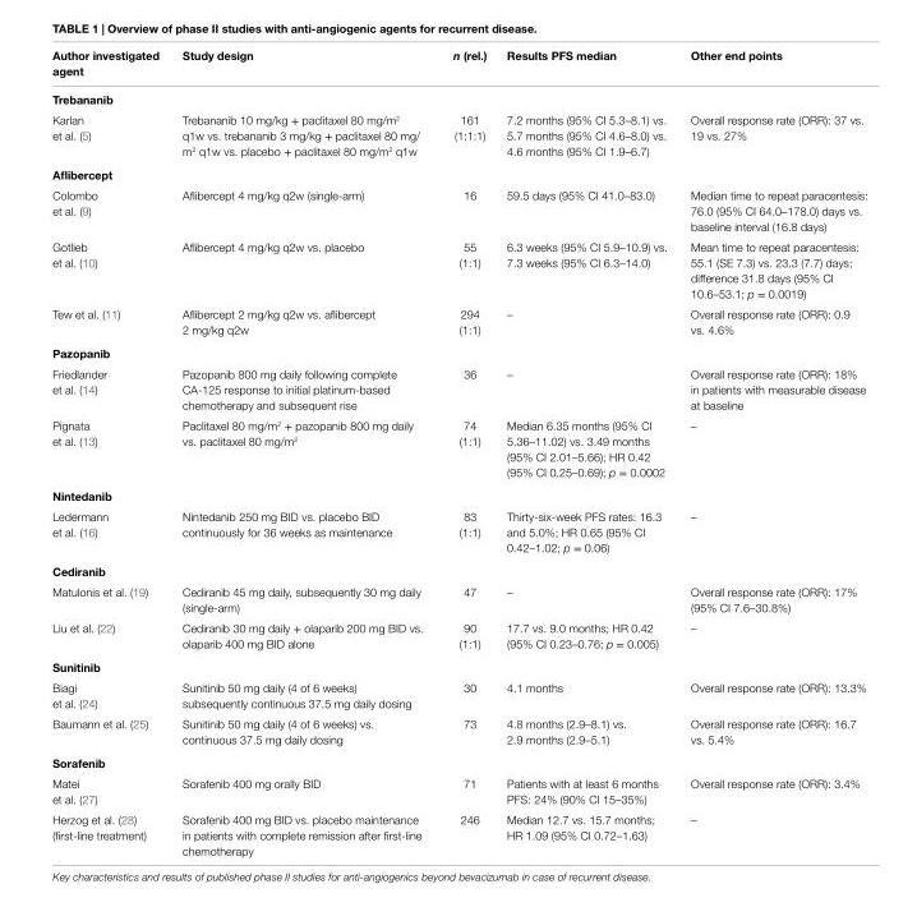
<table><thead><tr><td>Author investigated agent</td><td>Study design</td><td>n (rel.)</td><td>Results PFS median</td><td>Other end points</td></tr></thead><tbody><tr><td colspan="5">Trebananib</td></tr><tr><td>Karlan et al. (5)</td><td>Trebananib 10 mg/kg + paclitaxel 80 mg/m<sup>2</sup> q1w vs. trebananib 3 mg/kg + paclitaxel 80 mg/ m<sup>2</sup> q1w vs. placebo + paclitaxel 80 mg/m<sup>2</sup> q1w</td><td>161 (1:1:1)</td><td>7.2 months (95% CI 5.3–8.1) vs. 5.7 months (95% CI 4.6–8.0) vs. 4.6 months (95% CI 1.9–6.7)</td><td>Overall response rate (ORR): 37 vs. 19 vs. 27%</td></tr><tr><td colspan="5">Aflibercept</td></tr><tr><td>Colombo et al. (9)</td><td>Aflibercept 4 mg/kg q2w (single-arm)</td><td>16</td><td>59.5 days (95% CI 41.0–83.0)</td><td>Median time to repeat paracentesis: 76.0 (95% CI 64.0–178.0) days vs. baseline interval (16.8 days)</td></tr><tr><td>Gotlieb et al. (10)</td><td>Aflibercept 4 mg/kg q2w vs. placebo</td><td>55 (1:1)</td><td>6.3 weeks (95% CI 5.9–10.9) vs. 7.3 weeks (95% CI 6.3–14.0)</td><td>Mean time to repeat paracentesis: 55.1 (SE 7.3) vs. 23.3 (7.7) days; difference 31.8 days (95% CI 10.6–53.1; p = 0.0019)</td></tr><tr><td>Tew et al. (11)</td><td>Aflibercept 2 mg/kg q2w vs. aflibercept 2 mg/kg q2w</td><td>294 (1:1)</td><td>–</td><td>Overall response rate (ORR): 0.9 vs. 4.6%</td></tr><tr><td colspan="5">Pazopanib</td></tr><tr><td>Friedlander et al. (14)</td><td>Pazopanib 800 mg daily following complete CA-125 response to initial platinum-based chemotherapy and subsequent rise</td><td>36</td><td>–</td><td>Overall response rate (ORR): 18% in patients with measurable disease at baseline</td></tr><tr><td>Pignata et al. (13)</td><td>Paclitaxel 80 mg/m<sup>2</sup> + pazopanib 800 mg daily vs. paclitaxel 80 mg/m<sup>2</sup></td><td>74 (1:1)</td><td>Median 6.35 months (95% CI 5.36–11.02) vs. 3.49 months (95% CI 2.01–5.66); HR 0.42 (95% CI 0.25–0.69); p = 0.0002</td><td>–</td></tr><tr><td colspan="5">nintedanib</td></tr><tr><td>Ledermann et al. (16)</td><td>Nintedanib 250 mg BID vs. placebo BID continuously for 36 weeks as maintenance</td><td>83 (1:1)</td><td>Thirty-six-week PFS rates: 16.3 and 5.0%; HR 0.65 (95% CI 0.42–1.02; p = 0.06)</td><td>–</td></tr><tr><td colspan="5">Cediranib</td></tr><tr><td>Matulonis et al. (19)</td><td>Cediranib 45 mg daily, subsequently 30 mg daily (single-arm)</td><td>47</td><td>–</td><td>Overall response rate (ORR): 17% (95% CI 7.6–30.8%)</td></tr><tr><td>Liu et al. (22)</td><td>Cediranib 30 mg daily + olaparib 200 mg BID vs. olaparib 400 mg BID alone</td><td>90 (1:1)</td><td>17.7 vs. 9.0 months; HR 0.42 (95% CI 0.23–0.76; p = 0.005)</td><td>–</td></tr><tr><td colspan="5">Sunitinib</td></tr><tr><td>Biagi et al. (24)</td><td>Sunitinib 50 mg daily (4 of 6 weeks) subsequently continuous 37.5 mg daily dosing</td><td>30</td><td>4.1 months</td><td>Overall response rate (ORR): 13.3%</td></tr><tr><td>Baumann et al. (25)</td><td>Sunitinib 50 mg daily (4 of 6 weeks) vs. continuous 37.5 mg daily dosing</td><td>73</td><td>4.8 months (2.9–8.1) vs. 2.9 months (2.9–5.1)</td><td>Overall response rate (ORR): 16.7 vs. 5.4%</td></tr><tr><td colspan="5">Sorafenib</td></tr><tr><td>Matei et al. (27)</td><td>Sorafenib 400 mg orally BID</td><td>71</td><td>Patients with at least 6 months PFS: 24% (90% CI 15–35%)</td><td>Overall response rate (ORR): 3.4%</td></tr><tr><td>Herzog et al. (28) (first-line treatment)</td><td>Sorafenib 400 mg BID vs. placebo maintenance in patients with complete remission after first-line chemotherapy</td><td>246</td><td>Median 12.7 vs. 15.7 months; HR 1.09 (95% CI 0.72–1.63)</td><td>–</td></tr></tbody></table>